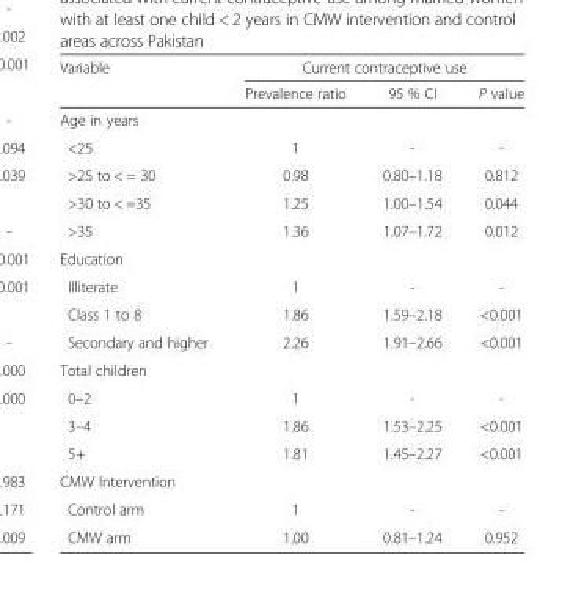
<table><thead><tr><td rowspan="2">Variable</td><td colspan="3">Current contraceptive use</td></tr><tr><td>Prevalence ratio</td><td>95 % CI</td><td>P value</td></tr></thead><tbody><tr><td colspan="4">Age in years</td></tr><tr><td>&lt;25</td><td>1</td><td>-</td><td>-</td></tr><tr><td>&gt;25 to &lt; = 30</td><td>0.98</td><td>0.80–1.18</td><td>0.812</td></tr><tr><td>&gt;30 to &lt; =35</td><td>1.25</td><td>1.00–1.54</td><td>0.044</td></tr><tr><td>&gt;35</td><td>1.36</td><td>1.07–1.72</td><td>0.012</td></tr><tr><td colspan="4">Education</td></tr><tr><td>Illiterate</td><td>1</td><td>-</td><td>-</td></tr><tr><td>Class 1 to 8</td><td>1.86</td><td>1.59–2.18</td><td>&lt;0.001</td></tr><tr><td>Secondary and higher</td><td>2.26</td><td>1.91–2.66</td><td>&lt;0.001</td></tr><tr><td colspan="4">Total children</td></tr><tr><td>0–2</td><td>1</td><td>-</td><td>-</td></tr><tr><td>3–4</td><td>1.86</td><td>1.53–2.25</td><td>&lt;0.001</td></tr><tr><td>5+</td><td>1.81</td><td>1.45–2.27</td><td>&lt;0.001</td></tr><tr><td colspan="4">CMW Intervention</td></tr><tr><td>Control arm</td><td>1</td><td>-</td><td>-</td></tr><tr><td>CMW arm</td><td>1.00</td><td>0.81–1.24</td><td>0.952</td></tr></tbody></table>